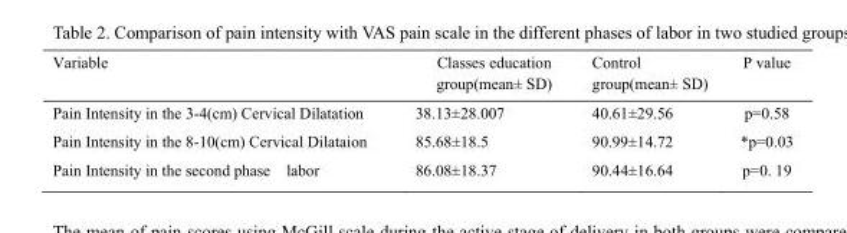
<table><thead><tr><td>Variable</td><td>Classes education group(mean± SD)</td><td>Control group(mean± SD)</td><td>P value</td></tr></thead><tbody><tr><td>Pain Intensity in the 3-4(cm) Cervical Dilatation</td><td>38.13±28.007</td><td>40.61±29.56</td><td>p=0.58</td></tr><tr><td>Pain Intensity in the 8-10(cm) Cervical Dilataion</td><td>85.68±18.5</td><td>90.99±14.72</td><td>*p=0.03</td></tr><tr><td>Pain Intensity in the second phase labor</td><td>86.08±18.37</td><td>90.44±16.64</td><td>p=0. 19</td></tr></tbody></table>